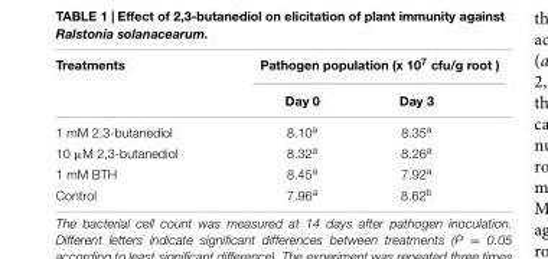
<table><thead><tr><td rowspan="2">Treatments</td><td colspan="2">Pathogen population (x 107 cfu/g root</td></tr><tr><td>Day 0</td><td>Day 3</td></tr></thead><tbody><tr><td>1 mM 2,3-butanediol</td><td>8.10<sup>a</sup></td><td>8.35<sup>a</sup></td></tr><tr><td>10 µM 2,3-butanediol</td><td>8.32<sup>a</sup></td><td>8.26<sup>a</sup></td></tr><tr><td>1 mM BTH</td><td>8.45<sup>a</sup></td><td>7.92<sup>a</sup></td></tr><tr><td>Control</td><td>7.96<sup>a</sup></td><td>8.62<sup>b</sup></td></tr></tbody></table>